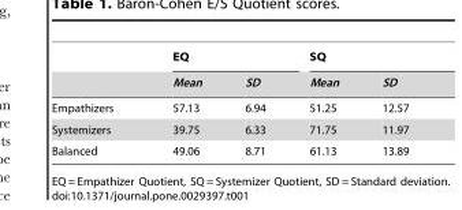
<table><thead><tr><td rowspan="2"></td><td colspan="2">EQ</td><td colspan="2">SQ</td></tr><tr><td>Mean</td><td>SD</td><td>Mean</td><td>SD</td></tr></thead><tbody><tr><td>Empathizers</td><td>57.13</td><td>6.94</td><td>51.25</td><td>12.57</td></tr><tr><td>Systemizers</td><td>39.75</td><td>6.33</td><td>71.75</td><td>11.97</td></tr><tr><td>Balanced</td><td>49.06</td><td>8.71</td><td>61.13</td><td>13.89</td></tr></tbody></table>